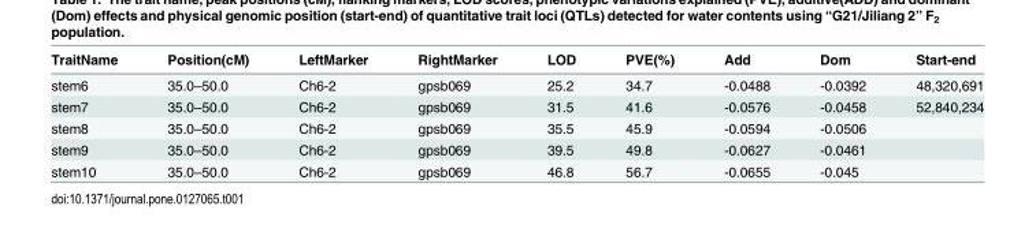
<table><thead><tr><td>TraitName</td><td>Position(cM)</td><td>LeftMarker</td><td>RightMarker</td><td>LOD</td><td>PVE(%)</td><td>Add</td><td>Dom</td><td>Start-end</td></tr></thead><tbody><tr><td>stem6</td><td>35.0–50.0</td><td>Ch6-2</td><td>gpsb069</td><td>25.2</td><td>34.7</td><td>-0.0488</td><td>-0.0392</td><td>48,320,691</td></tr><tr><td>stem7</td><td>35.0–50.0</td><td>Ch6-2</td><td>gpsb069</td><td>31.5</td><td>41.6</td><td>-0.0576</td><td>-0.0458</td><td>52,840,234</td></tr><tr><td>stem8</td><td>35.0–50.0</td><td>Ch6-2</td><td>gpsb069</td><td>35.5</td><td>45.9</td><td>-0.0594</td><td>-0.0506</td><td></td></tr><tr><td>stem9</td><td>35.0–50.0</td><td>Ch6-2</td><td>gpsb069</td><td>39.5</td><td>49.8</td><td>-0.0627</td><td>-0.0461</td><td></td></tr><tr><td>stem10</td><td>35.0–50.0</td><td>Ch6-2</td><td>gpsb069</td><td>46.8</td><td>56.7</td><td>-0.0655</td><td>-0.045</td><td></td></tr></tbody></table>